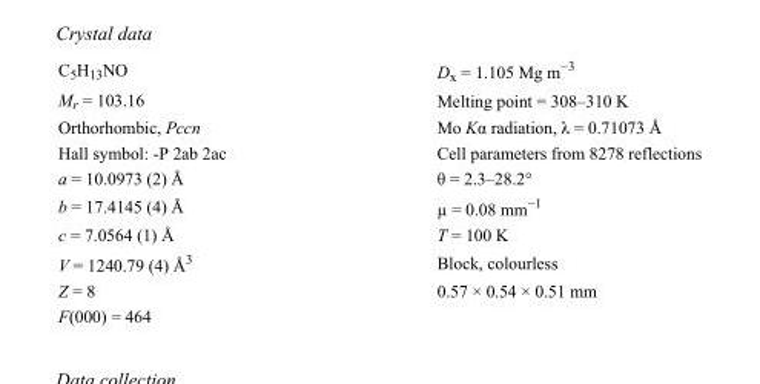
<table><tbody><tr><td>C<sub>5</sub>H<sub>13</sub>NO</td><td>D<sub>x</sub> = 1.105 Mg m<sup>−3</sup></td></tr><tr><td>M<sub>r</sub> = 103.16</td><td>Melting point = 308–310 K</td></tr><tr><td>Orthorhombic, Pccn</td><td>Mo Kα radiation, λ = 0.71073 Å</td></tr><tr><td>Hall symbol: -P 2ab 2ac</td><td>Cell parameters from 8278 reflections</td></tr><tr><td>a = 10.0973 (2) Å</td><td>θ = 2.3–28.2°</td></tr><tr><td>b = 17.4145 (4) Å</td><td>µ = 0.08 mm<sup>−1</sup></td></tr><tr><td>c = 7.0564 (1) Å</td><td>T = 100 K</td></tr><tr><td>V = 1240.79 (4) Å<sup>3</sup></td><td>Block, colourless</td></tr><tr><td>Z = 8</td><td>0.57 × 0.54 × 0.51 mm</td></tr><tr><td>F(000) = 464</td><td></td></tr></tbody></table>